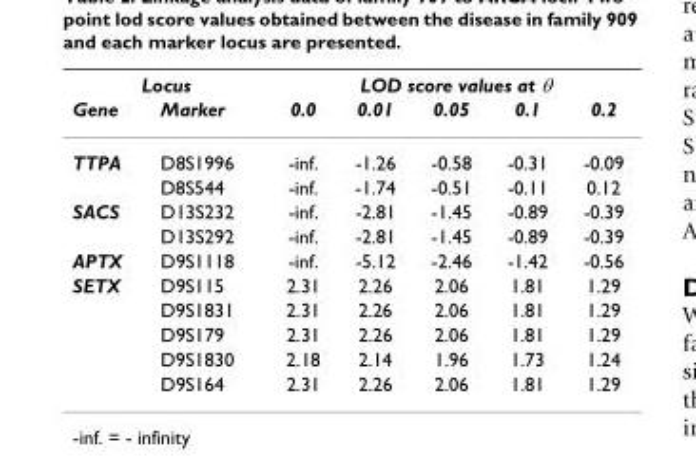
<table><thead><tr><td colspan="2">Locus</td><td colspan="5">LOD score values at θ</td></tr><tr><td>Gene</td><td>Marker</td><td>0.0</td><td>0.01</td><td>0.05</td><td>0.1</td><td>0.2</td></tr></thead><tbody><tr><td rowspan="2">TTPA</td><td>D8S1996</td><td>-inf.</td><td>-1.26</td><td>-0.58</td><td>-0.31</td><td>-0.09</td></tr><tr><td>D8S544</td><td>-inf.</td><td>-1.74</td><td>-0.51</td><td>-0.11</td><td>0.12</td></tr><tr><td rowspan="2">SACS</td><td>D13S232</td><td>-inf.</td><td>-2.81</td><td>-1.45</td><td>-0.89</td><td>-0.39</td></tr><tr><td>D13S292</td><td>-inf.</td><td>-2.81</td><td>-1.45</td><td>-0.89</td><td>-0.39</td></tr><tr><td>APTX</td><td>D9S1118</td><td>-inf.</td><td>-5.12</td><td>-2.46</td><td>-1.42</td><td>-0.56</td></tr><tr><td rowspan="5">SETX</td><td>D9S115</td><td>2.31</td><td>2.26</td><td>2.06</td><td>1.81</td><td>1.29</td></tr><tr><td>D9S1831</td><td>2.31</td><td>2.26</td><td>2.06</td><td>1.81</td><td>1.29</td></tr><tr><td>D9S179</td><td>2.31</td><td>2.26</td><td>2.06</td><td>1.81</td><td>1.29</td></tr><tr><td>D9S1830</td><td>2.18</td><td>2.14</td><td>1.96</td><td>1.73</td><td>1.24</td></tr><tr><td>D9S164</td><td>2.31</td><td>2.26</td><td>2.06</td><td>1.81</td><td>1.29</td></tr></tbody></table>